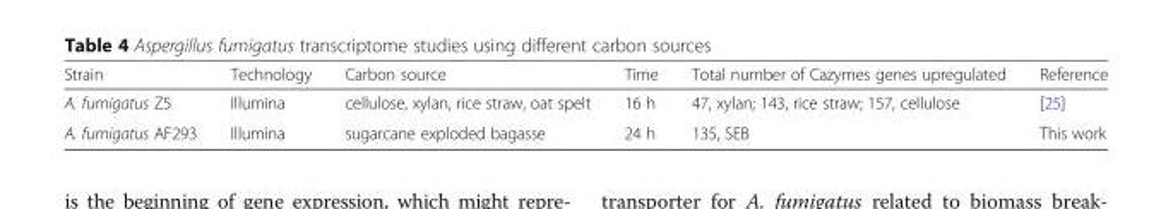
<table><thead><tr><td>Strain</td><td>Technology</td><td>Carbon source</td><td>Time</td><td>Total number of Cazymes genes upregulated</td><td>Reference</td></tr></thead><tbody><tr><td>A. fumigatus Z5</td><td>Illumina</td><td>cellulose, xylan, rice straw, oat spelt</td><td>16 h</td><td>47, xylan; 143, rice straw; 157, cellulose</td><td>[25]</td></tr><tr><td>A. fumigatus AF293</td><td>Illumina</td><td>sugarcane exploded bagasse</td><td>24 h</td><td>135, SEB</td><td>This work</td></tr></tbody></table>